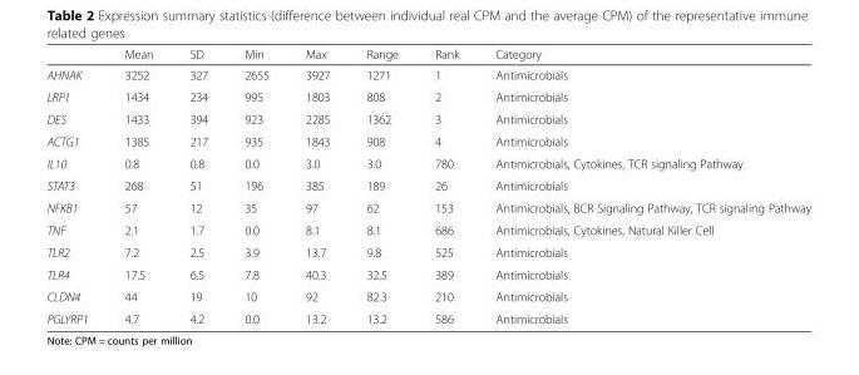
<table><thead><tr><td></td><td>Mean</td><td>SD</td><td>Min</td><td>Max</td><td>Range</td><td>Rank</td><td>Category</td></tr></thead><tbody><tr><td>AHNAK</td><td>3252</td><td>327</td><td>2655</td><td>3927</td><td>1271</td><td>1</td><td>Antimicrobials</td></tr><tr><td>LRP1</td><td>1434</td><td>234</td><td>995</td><td>1803</td><td>808</td><td>2</td><td>Antimicrobials</td></tr><tr><td>DES</td><td>1433</td><td>394</td><td>923</td><td>2285</td><td>1362</td><td>3</td><td>Antimicrobials</td></tr><tr><td>ACTG1</td><td>1385</td><td>217</td><td>935</td><td>1843</td><td>908</td><td>4</td><td>Antimicrobials</td></tr><tr><td>IL10</td><td>0.8</td><td>0.8</td><td>0.0</td><td>3.0</td><td>3.0</td><td>780</td><td>Antimicrobials, Cytokines, TCR signaling Pathway</td></tr><tr><td>STAT3</td><td>268</td><td>51</td><td>196</td><td>385</td><td>189</td><td>26</td><td>Antimicrobials</td></tr><tr><td>NFKB1</td><td>57</td><td>12</td><td>35</td><td>97</td><td>62</td><td>153</td><td>Antimicrobials, BCR Signaling Pathway, TCR signaling Pathway</td></tr><tr><td>TNF</td><td>2.1</td><td>1.7</td><td>0.0</td><td>8.1</td><td>8.1</td><td>686</td><td>Antimicrobials, Cytokines, Natural Killer Cell</td></tr><tr><td>TLR2</td><td>7.2</td><td>2.5</td><td>3.9</td><td>13.7</td><td>9.8</td><td>525</td><td>Antimicrobials</td></tr><tr><td>TLR4</td><td>17.5</td><td>6.5</td><td>7.8</td><td>40.3</td><td>32.5</td><td>389</td><td>Antimicrobials</td></tr><tr><td>CLDN4</td><td>44</td><td>19</td><td>10</td><td>92</td><td>82.3</td><td>210</td><td>Antimicrobials</td></tr><tr><td>PGLYRP1</td><td>4.7</td><td>4.2</td><td>0.0</td><td>13.2</td><td>13.2</td><td>586</td><td>Antimicrobials</td></tr></tbody></table>